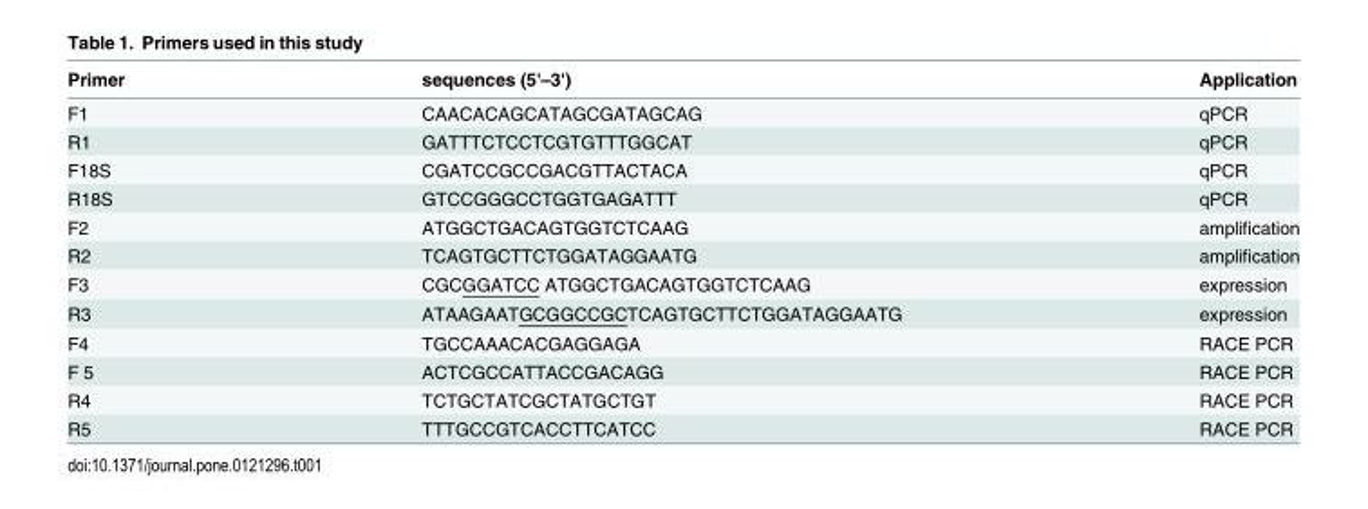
<table><thead><tr><td>Primer</td><td>sequences (5&#x27;–3&#x27;)</td><td>Application</td></tr></thead><tbody><tr><td>F1</td><td>CAACACAGCATAGCGATAGCAG</td><td>qPCR</td></tr><tr><td>R1</td><td>GATTTCTCCTCGTGTTTGGCAT</td><td>qPCR</td></tr><tr><td>F18S</td><td>CGATCCGCCGACGTTACTACA</td><td>qPCR</td></tr><tr><td>R18S</td><td>GTCCGGGCCTGGTGAGATTT</td><td>qPCR</td></tr><tr><td>F2</td><td>ATGGCTGACAGTGGTCTCAAG</td><td>amplification</td></tr><tr><td>R2</td><td>TCAGTGCTTCTGGATAGGAATG</td><td>amplification</td></tr><tr><td>F3</td><td>CGCGGATCC ATGGCTGACAGTGGTCTCAAG</td><td>expression</td></tr><tr><td>R3</td><td>ATAAGAATGCGGCCGCTCAGTGCTTCTGGATAGGAATG</td><td>expression</td></tr><tr><td>F4</td><td>TGCCAAACACGAGGAGA</td><td>RACE PCR</td></tr><tr><td>F 5</td><td>ACTCGCCATTACCGACAGG</td><td>RACE PCR</td></tr><tr><td>R4</td><td>TCTGCTATCGCTATGCTGT</td><td>RACE PCR</td></tr><tr><td>R5</td><td>TTTGCCGTCACCTTCATCC</td><td>RACE PCR</td></tr></tbody></table>